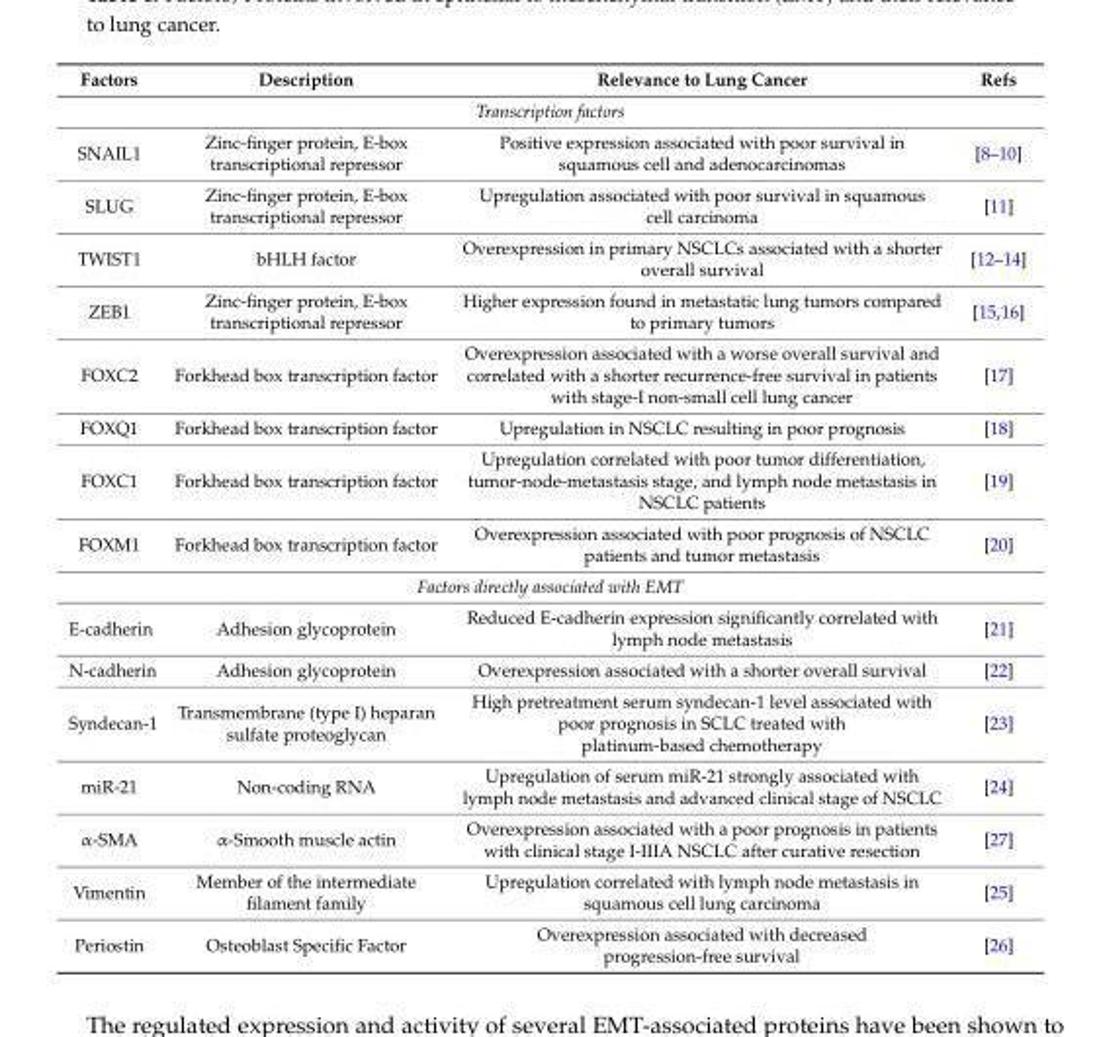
<table><thead><tr><td>Factors</td><td>Description</td><td>Relevance to Lung Cancer</td><td>Refs</td></tr></thead><tbody><tr><td colspan="4">Transcription factors</td></tr><tr><td>SNAIL1</td><td>Zinc-finger protein, E-box transcriptional repressor</td><td>Positive expression associated with poor survival in squamous cell and adenocarcinomas</td><td>[8–10]</td></tr><tr><td>SLUG</td><td>Zinc-finger protein, E-box transcriptional repressor</td><td>Upregulation associated with poor survival in squamous cell carcinoma</td><td>[11]</td></tr><tr><td>TWIST1</td><td>bHLH factor</td><td>Overexpression in primary NSCLCs associated with a shorter overall survival</td><td>[12–14]</td></tr><tr><td>ZEB1</td><td>Zinc-finger protein, E-box transcriptional repressor</td><td>Higher expression found in metastatic lung tumors compared to primary tumors</td><td>[15,16]</td></tr><tr><td>FOXC2</td><td>Forkhead box transcription factor</td><td>Overexpression associated with a worse overall survival and correlated with a shorter recurrence-free survival in patients with stage-I non-small cell lung cancer</td><td>[17]</td></tr><tr><td>FOXQ1</td><td>Forkhead box transcription factor</td><td>Upregulation in NSCLC resulting in poor prognosis</td><td>[18]</td></tr><tr><td>FOXC1</td><td>Forkhead box transcription factor</td><td>Upregulation correlated with poor tumor differentiation, tumor-node-metastasis stage, and lymph node metastasis in NSCLC patients</td><td>[19]</td></tr><tr><td>FOXM1</td><td>Forkhead box transcription factor</td><td>Overexpression associated with poor prognosis of NSCLC patients and tumor metastasis</td><td>[20]</td></tr><tr><td colspan="4">Factors directly associated with EMT</td></tr><tr><td>E-cadherin</td><td>Adhesion glycoprotein</td><td>Reduced E-cadherin expression significantly correlated with lymph node metastasis</td><td>[21]</td></tr><tr><td>N-cadherin</td><td>Adhesion glycoprotein</td><td>Overexpression associated with a shorter overall survival</td><td>[22]</td></tr><tr><td>Syndecan-1</td><td>Transmembrane (type I) heparan sulfate proteoglycan</td><td>High pretreatment serum syndecan-1 level associated with poor prognosis in SCLC treated with platinum-based chemotherapy</td><td>[23]</td></tr><tr><td>miR-21</td><td>Non-coding RNA</td><td>Upregulation of serum miR-21 strongly associated with lymph node metastasis and advanced clinical stage of NSCLC</td><td>[24]</td></tr><tr><td>α-SMA</td><td>α-Smooth muscle actin</td><td>Overexpression associated with a poor prognosis in patients with clinical stage I-IIIA NSCLC after curative resection</td><td>[27]</td></tr><tr><td>Vimentin</td><td>Member of the intermediate filament family</td><td>Upregulation correlated with lymph node metastasis in squamous cell lung carcinoma</td><td>[25]</td></tr><tr><td>Periostin</td><td>Osteoblast Specific Factor</td><td>Overexpression associated with decreased progression-free survival</td><td>[26]</td></tr></tbody></table>